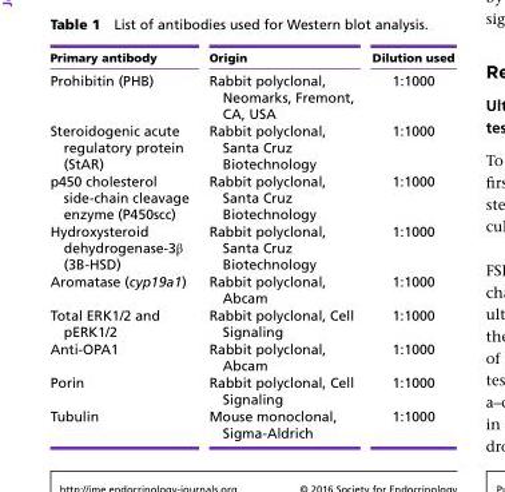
<table><thead><tr><td>Primary antibody</td><td>Origin</td><td>Dilution used</td></tr></thead><tbody><tr><td>Prohibitin (PHB)</td><td>Rabbit polyclonal, Neomarks, Fremont, CA, USA</td><td>1:1000</td></tr><tr><td>Steroidogenic acute regulatory protein (StAR)</td><td>Rabbit polyclonal, Santa Cruz Biotechnology</td><td>1:1000</td></tr><tr><td>p450 cholesterol side-chain cleavage enzyme (P450scc)</td><td>Rabbit polyclonal, Santa Cruz Biotechnology</td><td>1:1000</td></tr><tr><td>Hydroxysteroid dehydrogenase-3β (3B-HSD)</td><td>Rabbit polyclonal, Santa Cruz Biotechnology</td><td>1:1000</td></tr><tr><td>Aromatase (cyp19a1)</td><td>Rabbit polyclonal, Abcam</td><td>1:1000</td></tr><tr><td>Total ERK1/2 and pERK1/2</td><td>Rabbit polyclonal, Cell Signaling</td><td>1:1000</td></tr><tr><td>Anti-OPA1</td><td>Rabbit polyclonal, Abcam</td><td>1:1000</td></tr><tr><td>Porin</td><td>Rabbit polyclonal, Cell Signaling</td><td>1:1000</td></tr><tr><td>Tubulin</td><td>Mouse monoclonal, Sigma-Aldrich</td><td>1:1000</td></tr></tbody></table>